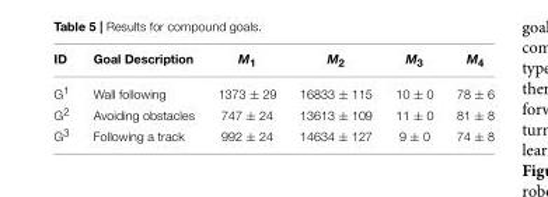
<table><thead><tr><td>ID</td><td>Goal Description</td><td>M<sub>1</sub></td><td>M<sub>2</sub></td><td>M<sub>3</sub></td><td>M<sub>4</sub></td></tr></thead><tbody><tr><td>G<sup>1</sup></td><td>Wall following</td><td>1373 ± 29</td><td>16833 ± 115</td><td>10 ± 0</td><td>78 ± 6</td></tr><tr><td>G<sup>2</sup></td><td>Avoiding obstacles</td><td>747 ± 24</td><td>13613 ± 109</td><td>11 ± 0</td><td>81 ± 8</td></tr><tr><td>G<sup>3</sup></td><td>Following a track</td><td>992 ± 24</td><td>14634 ± 127</td><td>9 ± 0</td><td>74 ± 8</td></tr></tbody></table>